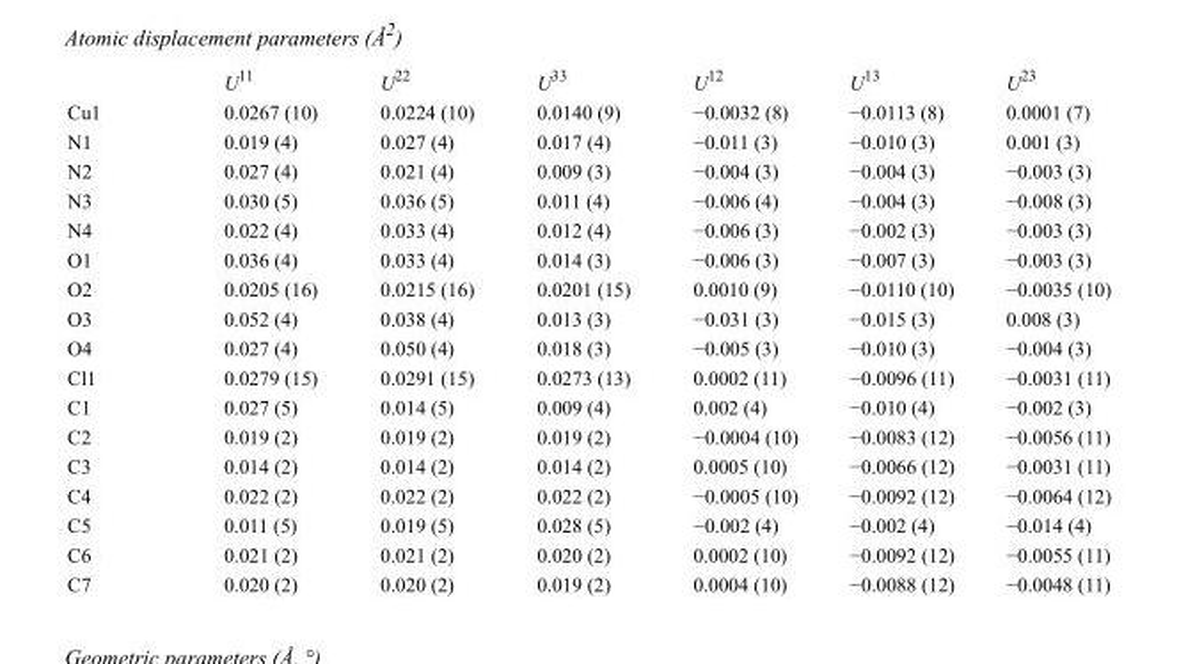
<table><thead><tr><td></td><td>U<sup>11</sup></td><td>U<sup>22</sup></td><td>U<sup>33</sup></td><td>U<sup>12</sup></td><td>U<sup>13</sup></td><td>U<sup>23</sup></td></tr></thead><tbody><tr><td>Cu1</td><td>0.0267 (10)</td><td>0.0224 (10)</td><td>0.0140 (9)</td><td>−0.0032 (8)</td><td>−0.0113 (8)</td><td>0.0001 (7)</td></tr><tr><td>N1</td><td>0.019 (4)</td><td>0.027 (4)</td><td>0.017 (4)</td><td>−0.011 (3)</td><td>−0.010 (3)</td><td>0.001 (3)</td></tr><tr><td>N2</td><td>0.027 (4)</td><td>0.021 (4)</td><td>0.009 (3)</td><td>−0.004 (3)</td><td>−0.004 (3)</td><td>−0.003 (3)</td></tr><tr><td>N3</td><td>0.030 (5)</td><td>0.036 (5)</td><td>0.011 (4)</td><td>−0.006 (4)</td><td>−0.004 (3)</td><td>−0.008 (3)</td></tr><tr><td>N4</td><td>0.022 (4)</td><td>0.033 (4)</td><td>0.012 (4)</td><td>−0.006 (3)</td><td>−0.002 (3)</td><td>−0.003 (3)</td></tr><tr><td>O1</td><td>0.036 (4)</td><td>0.033 (4)</td><td>0.014 (3)</td><td>−0.006 (3)</td><td>−0.007 (3)</td><td>−0.003 (3)</td></tr><tr><td>O2</td><td>0.0205 (16)</td><td>0.0215 (16)</td><td>0.0201 (15)</td><td>0.0010 (9)</td><td>−0.0110 (10)</td><td>−0.0035 (10)</td></tr><tr><td>O3</td><td>0.052 (4)</td><td>0.038 (4)</td><td>0.013 (3)</td><td>−0.031 (3)</td><td>−0.015 (3)</td><td>0.008 (3)</td></tr><tr><td>O4</td><td>0.027 (4)</td><td>0.050 (4)</td><td>0.018 (3)</td><td>−0.005 (3)</td><td>−0.010 (3)</td><td>−0.004 (3)</td></tr><tr><td>Cl1</td><td>0.0279 (15)</td><td>0.0291 (15)</td><td>0.0273 (13)</td><td>0.0002 (11)</td><td>−0.0096 (11)</td><td>−0.0031 (11)</td></tr><tr><td>C1</td><td>0.027 (5)</td><td>0.014 (5)</td><td>0.009 (4)</td><td>0.002 (4)</td><td>−0.010 (4)</td><td>−0.002 (3)</td></tr><tr><td>C2</td><td>0.019 (2)</td><td>0.019 (2)</td><td>0.019 (2)</td><td>−0.0004 (10)</td><td>−0.0083 (12)</td><td>−0.0056 (11)</td></tr><tr><td>C3</td><td>0.014 (2)</td><td>0.014 (2)</td><td>0.014 (2)</td><td>0.0005 (10)</td><td>−0.0066 (12)</td><td>−0.0031 (11)</td></tr><tr><td>C4</td><td>0.022 (2)</td><td>0.022 (2)</td><td>0.022 (2)</td><td>−0.0005 (10)</td><td>−0.0092 (12)</td><td>−0.0064 (12)</td></tr><tr><td>C5</td><td>0.011 (5)</td><td>0.019 (5)</td><td>0.028 (5)</td><td>−0.002 (4)</td><td>−0.002 (4)</td><td>−0.014 (4)</td></tr><tr><td>C6</td><td>0.021 (2)</td><td>0.021 (2)</td><td>0.020 (2)</td><td>0.0002 (10)</td><td>−0.0092 (12)</td><td>−0.0055 (11)</td></tr><tr><td>C7</td><td>0.020 (2)</td><td>0.020 (2)</td><td>0.019 (2)</td><td>0.0004 (10)</td><td>−0.0088 (12)</td><td>−0.0048 (11)</td></tr></tbody></table>